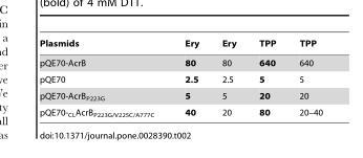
<table><thead><tr><td>Plasmids</td><td>Ery</td><td>Ery</td><td>TPP</td><td>TPP</td></tr></thead><tbody><tr><td>pQE70-AcrB</td><td>80</td><td>80</td><td>640</td><td>640</td></tr><tr><td>pQE70</td><td>2.5</td><td>2.5</td><td>5</td><td>5</td></tr><tr><td>pQE70-AcrB<sub>P223G</sub></td><td>5</td><td>5</td><td>20</td><td>20</td></tr><tr><td>pQE70-<sub>CL</sub>AcrB<sub>P223G/V225C/A777C</sub></td><td>40</td><td>20</td><td>80</td><td>20–40</td></tr></tbody></table>